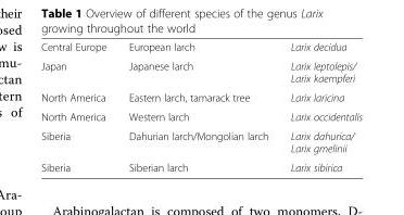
<table><tbody><tr><td>Central Europe</td><td>European larch</td><td>Larix decidua</td></tr><tr><td>Japan</td><td>Japanese larch</td><td>Larix leptolepis/ Larix kaempferi</td></tr><tr><td>North America</td><td>Eastern larch, tamarack tree</td><td>Larix laricina</td></tr><tr><td>North America</td><td>Western larch</td><td>Larix occidentalis</td></tr><tr><td>Siberia</td><td>Dahurian larch/Mongolian larch</td><td>Larix dahurica/ Larix gmelinii</td></tr><tr><td>Siberia</td><td>Siberian larch</td><td>Larix sibirica</td></tr></tbody></table>